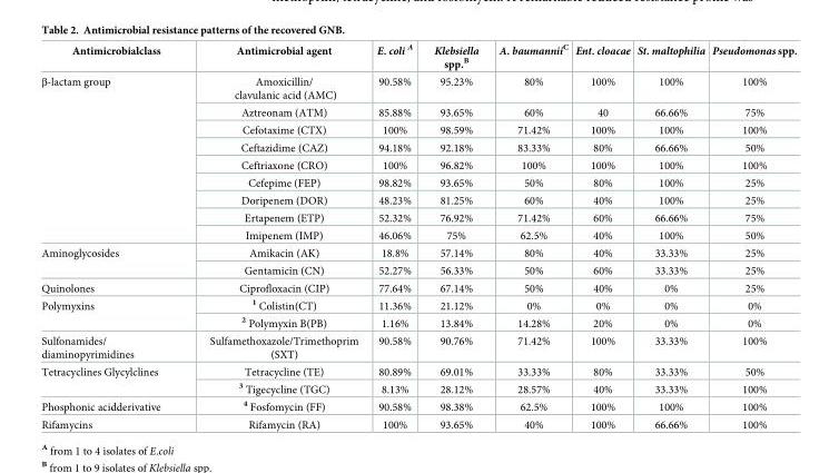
<table><thead><tr><td>Antimicrobialclass</td><td>Antimicrobial agent</td><td>E. coli <sup>A</sup></td><td>Klebsiella spp.<sup>B</sup></td><td>A. baumannii<sup>C</sup></td><td>Ent. cloacae</td><td>St. maltophilia</td><td>Pseudomonas spp.</td></tr></thead><tbody><tr><td rowspan="9">β-lactam group</td><td>Amoxicillin/ clavulanic acid (AMC)</td><td>90.58%</td><td>95.23%</td><td>80%</td><td>100%</td><td>100%</td><td>100%</td></tr><tr><td>Aztreonam (ATM)</td><td>85.88%</td><td>93.65%</td><td>60%</td><td>40</td><td>66.66%</td><td>75%</td></tr><tr><td>Cefotaxime (CTX)</td><td>100%</td><td>98.59%</td><td>71.42%</td><td>100%</td><td>100%</td><td>100%</td></tr><tr><td>Ceftazidime (CAZ)</td><td>94.18%</td><td>92.18%</td><td>83.33%</td><td>80%</td><td>66.66%</td><td>50%</td></tr><tr><td>Ceftriaxone (CRO)</td><td>100%</td><td>96.82%</td><td>100%</td><td>100%</td><td>100%</td><td>100%</td></tr><tr><td>Cefepime (FEP)</td><td>98.82%</td><td>93.65%</td><td>50%</td><td>80%</td><td>100%</td><td>25%</td></tr><tr><td>Doripenem (DOR)</td><td>48.23%</td><td>81.25%</td><td>60%</td><td>40%</td><td>100%</td><td>25%</td></tr><tr><td>Ertapenem (ETP)</td><td>52.32%</td><td>76.92%</td><td>71.42%</td><td>60%</td><td>66.66%</td><td>75%</td></tr><tr><td>Imipenem (IMP)</td><td>46.06%</td><td>75%</td><td>62.5%</td><td>40%</td><td>100%</td><td>50%</td></tr><tr><td rowspan="2">Aminoglycosides</td><td>Amikacin (AK)</td><td>18.8%</td><td>57.14%</td><td>80%</td><td>40%</td><td>33.33%</td><td>25%</td></tr><tr><td>Gentamicin (CN)</td><td>52.27%</td><td>56.33%</td><td>50%</td><td>60%</td><td>33.33%</td><td>25%</td></tr><tr><td>Quinolones</td><td>Ciprofloxacin (CIP)</td><td>77.64%</td><td>67.14%</td><td>50%</td><td>40%</td><td>0%</td><td>25%</td></tr><tr><td rowspan="2">Polymyxins</td><td><sup>1</sup> Colistin(CT)</td><td>11.36%</td><td>21.12%</td><td>0%</td><td>0%</td><td>0%</td><td>0%</td></tr><tr><td><sup>2</sup> Polymyxin B(PB)</td><td>1.16%</td><td>13.84%</td><td>14.28%</td><td>20%</td><td>0%</td><td>0%</td></tr><tr><td>Sulfonamides/ diaminopyrimidines</td><td>Sulfamethoxazole/Trimethoprim (SXT)</td><td>90.58%</td><td>90.76%</td><td>71.42%</td><td>100%</td><td>33.33%</td><td>100%</td></tr><tr><td rowspan="2">Tetracyclines Glycylclines</td><td>Tetracycline (TE)</td><td>80.89%</td><td>69.01%</td><td>33.33%</td><td>80%</td><td>33.33%</td><td>50%</td></tr><tr><td><sup>3</sup> Tigecycline (TGC)</td><td>8.13%</td><td>28.12%</td><td>28.57%</td><td>40%</td><td>33.33%</td><td>100%</td></tr><tr><td>Phosphonic acidderivative</td><td><sup>4</sup> Fosfomycin (FF)</td><td>90.58%</td><td>98.38%</td><td>62.5%</td><td>100%</td><td>100%</td><td>100%</td></tr><tr><td>Rifamycins</td><td>Rifamycin (RA)</td><td>100%</td><td>93.65%</td><td>40%</td><td>100%</td><td>66.66%</td><td>100%</td></tr></tbody></table>